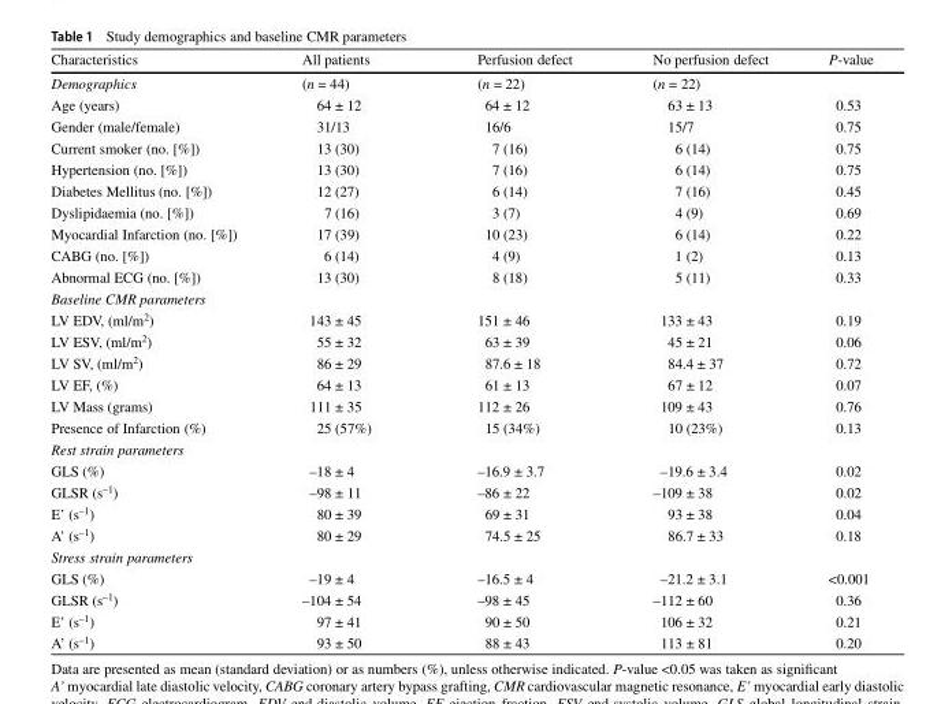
<table><thead><tr><td>Characteristics</td><td>All patients</td><td>Perfusion defect</td><td>No perfusion defect</td><td>P-value</td></tr></thead><tbody><tr><td>Demographics</td><td>(n = 44)</td><td>(n = 22)</td><td>(n = 22)</td><td></td></tr><tr><td>Age (years)</td><td>64 ± 12</td><td>64 ± 12</td><td>63 ± 13</td><td>0.53</td></tr><tr><td>Gender (male/female)</td><td>31/13</td><td>16/6</td><td>15/7</td><td>0.75</td></tr><tr><td>Current smoker (no. [%])</td><td>13 (30)</td><td>7 (16)</td><td>6 (14)</td><td>0.75</td></tr><tr><td>Hypertension (no. [%])</td><td>13 (30)</td><td>7 (16)</td><td>6 (14)</td><td>0.75</td></tr><tr><td>Diabetes Mellitus (no. [%])</td><td>12 (27)</td><td>6 (14)</td><td>7 (16)</td><td>0.45</td></tr><tr><td>Dyslipidaemia (no. [%])</td><td>7 (16)</td><td>3 (7)</td><td>4 (9)</td><td>0.69</td></tr><tr><td>Myocardial Infarction (no. [%])</td><td>17 (39)</td><td>10 (23)</td><td>6 (14)</td><td>0.22</td></tr><tr><td>CABG (no. [%])</td><td>6 (14)</td><td>4 (9)</td><td>1 (2)</td><td>0.13</td></tr><tr><td>Abnormal ECG (no. [%])</td><td>13 (30)</td><td>8 (18)</td><td>5 (11)</td><td>0.33</td></tr><tr><td colspan="5">Baseline CMR parameters</td></tr><tr><td>LV EDV, (ml/m<sup>2</sup>)</td><td>143 ± 45</td><td>151 ± 46</td><td>133 ± 43</td><td>0.19</td></tr><tr><td>LV ESV, (ml/m<sup>2</sup>)</td><td>55 ± 32</td><td>63 ± 39</td><td>45 ± 21</td><td>0.06</td></tr><tr><td>LV SV, (ml/m<sup>2</sup>)</td><td>86 ± 29</td><td>87.6 ± 18</td><td>84.4 ± 37</td><td>0.72</td></tr><tr><td>LV EF, (%)</td><td>64 ± 13</td><td>61 ± 13</td><td>67 ± 12</td><td>0.07</td></tr><tr><td>LV Mass (grams)</td><td>111 ± 35</td><td>112 ± 26</td><td>109 ± 43</td><td>0.76</td></tr><tr><td>Presence of Infarction (%)</td><td>25 (57%)</td><td>15 (34%)</td><td>10 (23%)</td><td>0.13</td></tr><tr><td colspan="5">Rest strain parameters</td></tr><tr><td>GLS (%)</td><td>–18 ± 4</td><td>–16.9 ± 3.7</td><td>–19.6 ± 3.4</td><td>0.02</td></tr><tr><td>GLSR (s<sup>–1</sup>)</td><td>–98 ± 11</td><td>–86 ± 22</td><td>–109 ± 38</td><td>0.02</td></tr><tr><td>E’ (s<sup>–1</sup>)</td><td>80 ± 39</td><td>69 ± 31</td><td>93 ± 38</td><td>0.04</td></tr><tr><td>A’ (s<sup>–1</sup>)</td><td>80 ± 29</td><td>74.5 ± 25</td><td>86.7 ± 33</td><td>0.18</td></tr><tr><td colspan="5">Stress strain parameters</td></tr><tr><td>GLS (%)</td><td>–19 ± 4</td><td>–16.5 ± 4</td><td>–21.2 ± 3.1</td><td>&lt;0.001</td></tr><tr><td>GLSR (s<sup>–1</sup>)</td><td>–104 ± 54</td><td>–98 ± 45</td><td>–112 ± 60</td><td>0.36</td></tr><tr><td>E’ (s<sup>–1</sup>)</td><td>97 ± 41</td><td>90 ± 50</td><td>106 ± 32</td><td>0.21</td></tr><tr><td>A’ (s<sup>–1</sup>)</td><td>93 ± 50</td><td>88 ± 43</td><td>113 ± 81</td><td>0.20</td></tr></tbody></table>